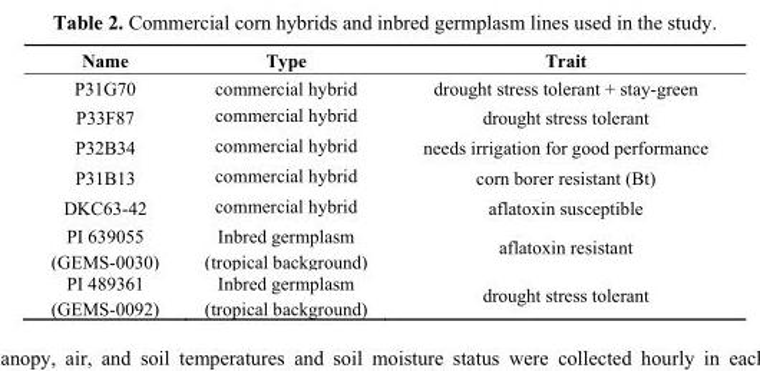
<table><thead><tr><td>Name</td><td>Type</td><td>Trait</td></tr></thead><tbody><tr><td>P31G70</td><td>commercial hybrid</td><td>drought stress tolerant + stay-green</td></tr><tr><td>P33F87</td><td>commercial hybrid</td><td>drought stress tolerant</td></tr><tr><td>P32B34</td><td>commercial hybrid</td><td>needs irrigation for good performance</td></tr><tr><td>P31B13</td><td>commercial hybrid</td><td>corn borer resistant (Bt)</td></tr><tr><td>DKC63-42</td><td>commercial hybrid</td><td>aflatoxin susceptible</td></tr><tr><td>PI 639055 (GEMS-0030)</td><td>Inbred germplasm (tropical background)</td><td>aflatoxin resistant</td></tr><tr><td>PI 489361 (GEMS-0092)</td><td>Inbred germplasm (tropical background)</td><td>drought stress tolerant</td></tr></tbody></table>